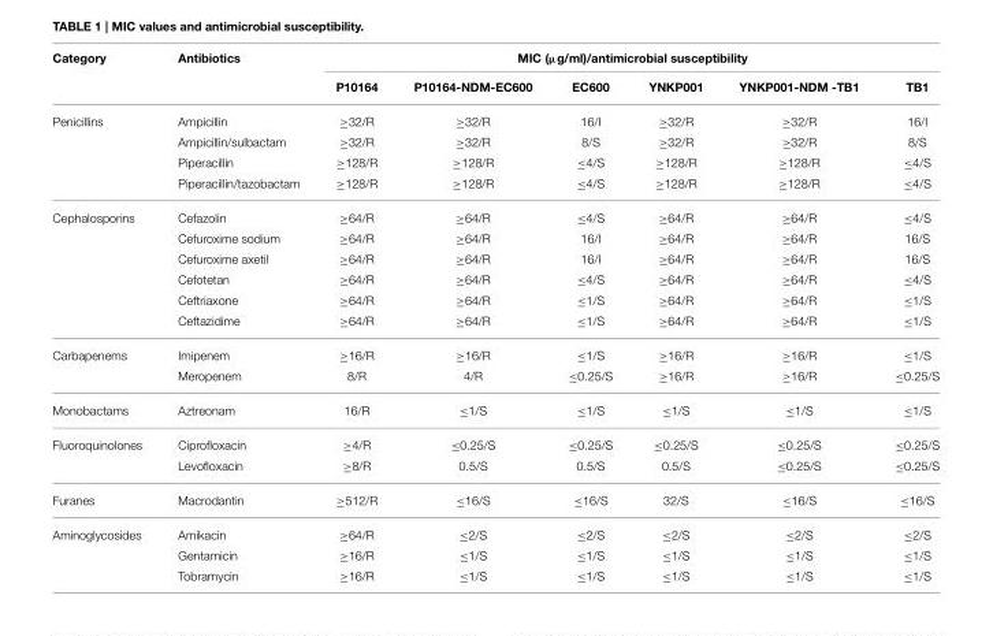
<table><thead><tr><td rowspan="2">Category</td><td rowspan="2">Antibiotics</td><td colspan="6">MIC (µg/ml)/antimicrobial susceptibility</td></tr><tr><td>P10164</td><td>P10164-NDM-EC600</td><td>EC600</td><td>YNKP001</td><td>YNKP001-NDM -TB1</td><td>TB1</td></tr></thead><tbody><tr><td rowspan="4">Penicillins</td><td>Ampicillin</td><td>≥32/R</td><td>≥32/R</td><td>16/I</td><td>≥32/R</td><td>≥32/R</td><td>16/I</td></tr><tr><td>Ampicillin/sulbactam</td><td>≥32/R</td><td>≥32/R</td><td>8/S</td><td>≥32/R</td><td>≥32/R</td><td>8/S</td></tr><tr><td>Piperacillin</td><td>≥128/R</td><td>≥128/R</td><td>≤4/S</td><td>≥128/R</td><td>≥128/R</td><td>≤4/S</td></tr><tr><td>Piperacillin/tazobactam</td><td>≥128/R</td><td>≥128/R</td><td>≤4/S</td><td>≥128/R</td><td>≥128/R</td><td>≤4/S</td></tr><tr><td rowspan="6">Cephalosporins</td><td>Cefazolin</td><td>≥64/R</td><td>≥64/R</td><td>≤4/S</td><td>≥64/R</td><td>≥64/R</td><td>≤4/S</td></tr><tr><td>Cefuroxime sodium</td><td>≥64/R</td><td>≥64/R</td><td>16/I</td><td>≥64/R</td><td>≥64/R</td><td>16/S</td></tr><tr><td>Cefuroxime axetil</td><td>≥64/R</td><td>≥64/R</td><td>16/I</td><td>≥64/R</td><td>≥64/R</td><td>16/S</td></tr><tr><td>Cefotetan</td><td>≥64/R</td><td>≥64/R</td><td>≤4/S</td><td>≥64/R</td><td>≥64/R</td><td>≤4/S</td></tr><tr><td>Ceftriaxone</td><td>≥64/R</td><td>≥64/R</td><td>≤1/S</td><td>≥64/R</td><td>≥64/R</td><td>≤1/S</td></tr><tr><td>Ceftazidime</td><td>≥64/R</td><td>≥64/R</td><td>≤1/S</td><td>≥64/R</td><td>≥64/R</td><td>≤1/S</td></tr><tr><td rowspan="2">Carbapenems</td><td>Imipenem</td><td>≥16/R</td><td>≥16/R</td><td>≤1/S</td><td>≥16/R</td><td>≥16/R</td><td>≤1/S</td></tr><tr><td>Meropenem</td><td>8/R</td><td>4/R</td><td>≤0.25/S</td><td>≥16/R</td><td>≥16/R</td><td>≤0.25/S</td></tr><tr><td>Monobactams</td><td>Aztreonam</td><td>16/R</td><td>≤1/S</td><td>≤1/S</td><td>≤1/S</td><td>≤1/S</td><td>≤1/S</td></tr><tr><td rowspan="2">Fluoroquinolones</td><td>Ciprofloxacin</td><td>≥4/R</td><td>≤0.25/S</td><td>≤0.25/S</td><td>≤0.25/S</td><td>≤0.25/S</td><td>≤0.25/S</td></tr><tr><td>Levofloxacin</td><td>≥8/R</td><td>0.5/S</td><td>0.5/S</td><td>0.5/S</td><td>≤0.25/S</td><td>≤0.25/S</td></tr><tr><td>Furanes</td><td>Macrodantin</td><td>≥512/R</td><td>≤16/S</td><td>≤16/S</td><td>32/S</td><td>≤16/S</td><td>≤16/S</td></tr><tr><td rowspan="3">Aminoglycosides</td><td>Amikacin</td><td>≥64/R</td><td>≤2/S</td><td>≤2/S</td><td>≤2/S</td><td>≤2/S</td><td>≤2/S</td></tr><tr><td>Gentamicin</td><td>≥16/R</td><td>≤1/S</td><td>≤1/S</td><td>≤1/S</td><td>≤1/S</td><td>≤1/S</td></tr><tr><td>Tobramycin</td><td>≥16/R</td><td>≤1/S</td><td>≤1/S</td><td>≤1/S</td><td>≤1/S</td><td>≤1/S</td></tr></tbody></table>